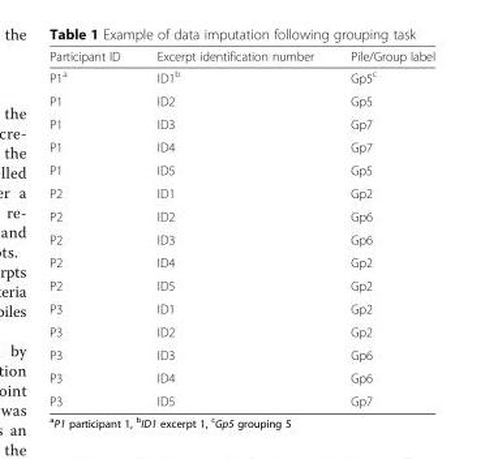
<table><thead><tr><td>Participant ID</td><td>Excerpt identification number</td><td>Pile/Group label</td></tr></thead><tbody><tr><td>P1<sup>a</sup></td><td>ID1<sup>b</sup></td><td>Gp5<sup>c</sup></td></tr><tr><td>P1</td><td>ID2</td><td>Gp5</td></tr><tr><td>P1</td><td>ID3</td><td>Gp7</td></tr><tr><td>P1</td><td>ID4</td><td>Gp7</td></tr><tr><td>P1</td><td>ID5</td><td>Gp5</td></tr><tr><td>P2</td><td>ID1</td><td>Gp2</td></tr><tr><td>P2</td><td>ID2</td><td>Gp6</td></tr><tr><td>P2</td><td>ID3</td><td>Gp6</td></tr><tr><td>P2</td><td>ID4</td><td>Gp2</td></tr><tr><td>P2</td><td>ID5</td><td>Gp2</td></tr><tr><td>P3</td><td>ID1</td><td>Gp2</td></tr><tr><td>P3</td><td>ID2</td><td>Gp2</td></tr><tr><td>P3</td><td>ID3</td><td>Gp6</td></tr><tr><td>P3</td><td>ID4</td><td>Gp6</td></tr><tr><td>P3</td><td>ID5</td><td>Gp7</td></tr></tbody></table>